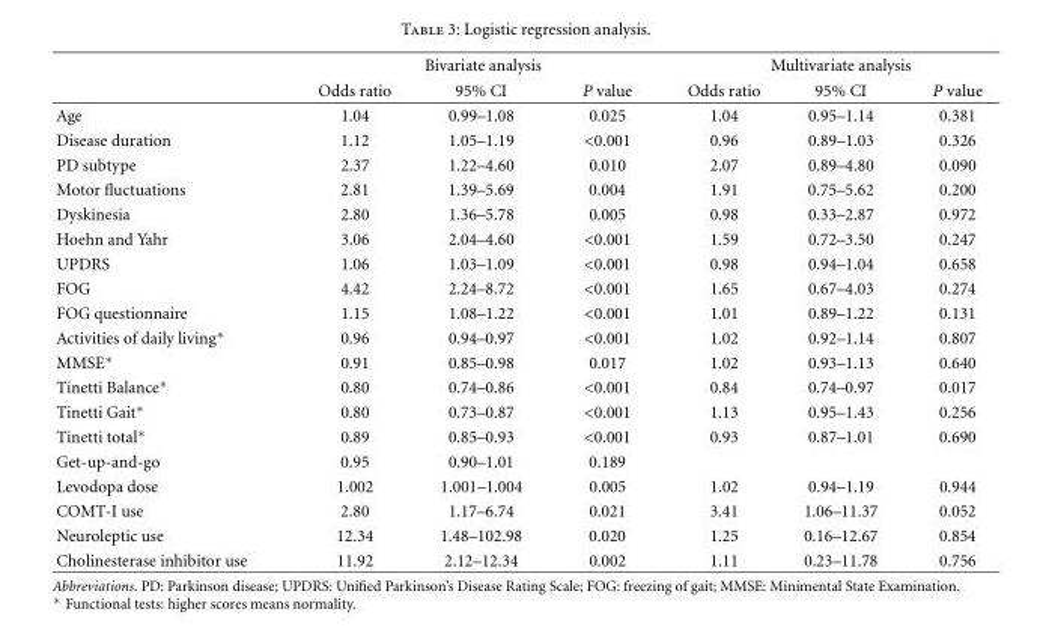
<table><thead><tr><td rowspan="2"></td><td colspan="3">Bivariate analysis</td><td colspan="3">Multivariate analysis</td></tr><tr><td>Odds ratio</td><td>95% CI</td><td>P value</td><td>Odds ratio</td><td>95% CI</td><td>P value</td></tr></thead><tbody><tr><td>Age</td><td>1.04</td><td>0.99–1.08</td><td>0.025</td><td>1.04</td><td>0.95–1.14</td><td>0.381</td></tr><tr><td>Disease duration</td><td>1.12</td><td>1.05–1.19</td><td>&lt;0.001</td><td>0.96</td><td>0.89–1.03</td><td>0.326</td></tr><tr><td>PD subtype</td><td>2.37</td><td>1.22–4.60</td><td>0.010</td><td>2.07</td><td>0.89–4.80</td><td>0.090</td></tr><tr><td>Motor fluctuations</td><td>2.81</td><td>1.39–5.69</td><td>0.004</td><td>1.91</td><td>0.75–5.62</td><td>0.200</td></tr><tr><td>Dyskinesia</td><td>2.80</td><td>1.36–5.78</td><td>0.005</td><td>0.98</td><td>0.33–2.87</td><td>0.972</td></tr><tr><td>Hoehn and Yahr</td><td>3.06</td><td>2.04–4.60</td><td>&lt;0.001</td><td>1.59</td><td>0.72–3.50</td><td>0.247</td></tr><tr><td>UPDRS</td><td>1.06</td><td>1.03–1.09</td><td>&lt;0.001</td><td>0.98</td><td>0.94–1.04</td><td>0.658</td></tr><tr><td>FOG</td><td>4.42</td><td>2.24–8.72</td><td>&lt;0.001</td><td>1.65</td><td>0.67–4.03</td><td>0.274</td></tr><tr><td>FOG questionnaire</td><td>1.15</td><td>1.08–1.22</td><td>&lt;0.001</td><td>1.01</td><td>0.89–1.22</td><td>0.131</td></tr><tr><td>Activities of daily living∗</td><td>0.96</td><td>0.94–0.97</td><td>&lt;0.001</td><td>1.02</td><td>0.92–1.14</td><td>0.807</td></tr><tr><td>MMSE∗</td><td>0.91</td><td>0.85–0.98</td><td>0.017</td><td>1.02</td><td>0.93–1.13</td><td>0.640</td></tr><tr><td>Tinetti Balance∗</td><td>0.80</td><td>0.74–0.86</td><td>&lt;0.001</td><td>0.84</td><td>0.74–0.97</td><td>0.017</td></tr><tr><td>Tinetti Gait∗</td><td>0.80</td><td>0.73–0.87</td><td>&lt;0.001</td><td>1.13</td><td>0.95–1.43</td><td>0.256</td></tr><tr><td>Tinetti total∗</td><td>0.89</td><td>0.85–0.93</td><td>&lt;0.001</td><td>0.93</td><td>0.87–1.01</td><td>0.690</td></tr><tr><td>Get-up-and-go</td><td>0.95</td><td>0.90–1.01</td><td>0.189</td><td></td><td></td><td></td></tr><tr><td>Levodopa dose</td><td>1.002</td><td>1.001–1.004</td><td>0.005</td><td>1.02</td><td>0.94–1.19</td><td>0.944</td></tr><tr><td>COMT-I use</td><td>2.80</td><td>1.17–6.74</td><td>0.021</td><td>3.41</td><td>1.06–11.37</td><td>0.052</td></tr><tr><td>Neuroleptic use</td><td>12.34</td><td>1.48–102.98</td><td>0.020</td><td>1.25</td><td>0.16–12.67</td><td>0.854</td></tr><tr><td>Cholinesterase inhibitor use</td><td>11.92</td><td>2.12–12.34</td><td>0.002</td><td>1.11</td><td>0.23–11.78</td><td>0.756</td></tr></tbody></table>